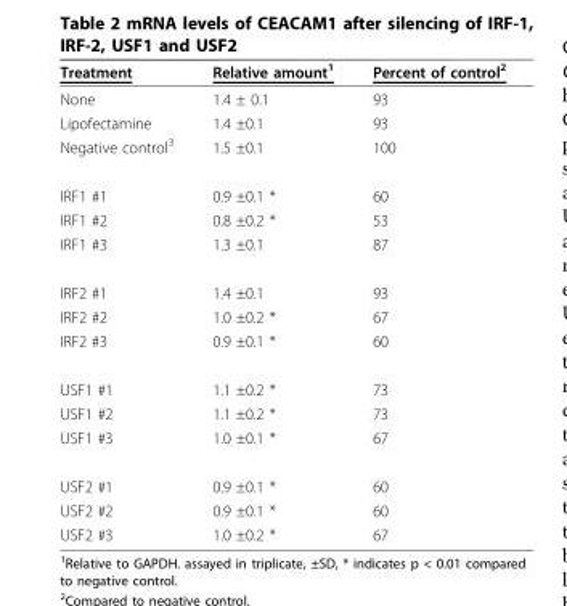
<table><thead><tr><td>Treatment</td><td>Relative amount<sup>1</sup></td><td>Percent of control<sup>2</sup></td></tr></thead><tbody><tr><td>None</td><td>1.4 ± 0.1</td><td>93</td></tr><tr><td>Lipofectamine</td><td>1.4 ±0.1</td><td>93</td></tr><tr><td>Negative control<sup>3</sup></td><td>1.5 ±0.1</td><td>100</td></tr><tr><td>IRF1 #1</td><td>0.9 ±0.1 *</td><td>60</td></tr><tr><td>IRF1 #2</td><td>0.8 ±0.2 *</td><td>53</td></tr><tr><td>IRF1 #3</td><td>1.3 ±0.1</td><td>87</td></tr><tr><td>IRF2 #1</td><td>1.4 ±0.1</td><td>93</td></tr><tr><td>IRF2 #2</td><td>1.0 ±0.2 *</td><td>67</td></tr><tr><td>IRF2 #3</td><td>0.9 ±0.1 *</td><td>60</td></tr><tr><td>USF1 #1</td><td>1.1 ±0.2 *</td><td>73</td></tr><tr><td>USF1 #2</td><td>1.1 ±0.2 *</td><td>73</td></tr><tr><td>USF1 #3</td><td>1.0 ±0.1 *</td><td>67</td></tr><tr><td>USF2 #1</td><td>0.9 ±0.1 *</td><td>60</td></tr><tr><td>USF2 #2</td><td>0.9 ±0.1 *</td><td>60</td></tr><tr><td>USF2 #3</td><td>1.0 ±0.2 *</td><td>67</td></tr></tbody></table>